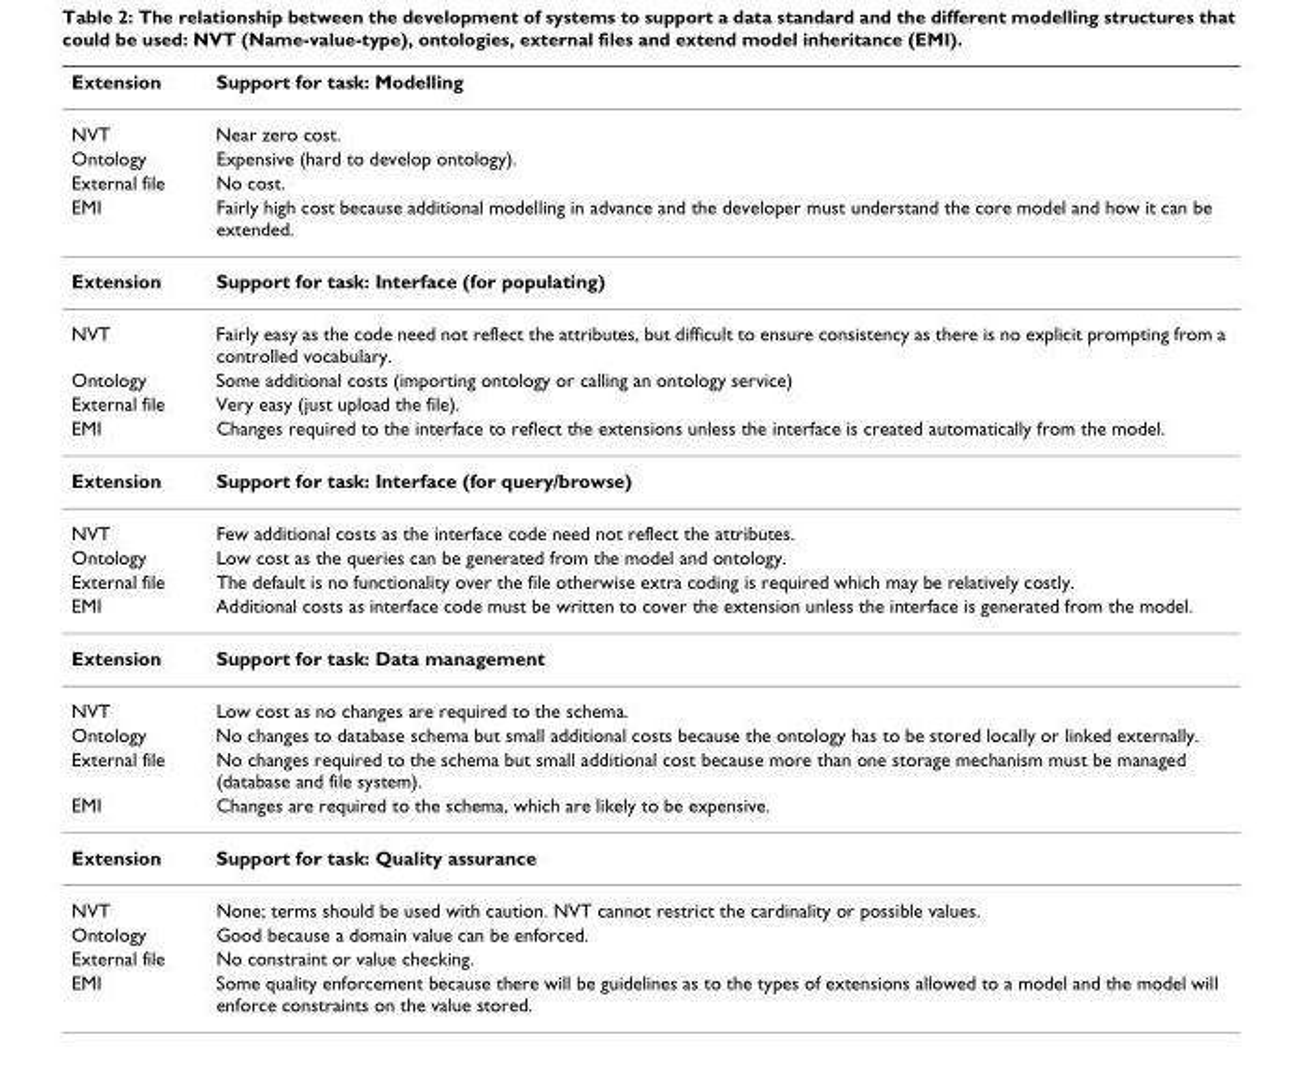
<table><thead><tr><td>Extension</td><td>Support for task: Modelling</td></tr></thead><tbody><tr><td>NVT</td><td>Near zero cost.</td></tr><tr><td>Ontology</td><td>Expensive (hard to develop ontology).</td></tr><tr><td>External file</td><td>No cost.</td></tr><tr><td>EMI</td><td>Fairly high cost because additional modelling in advance and the developer must understand the core model and how it can be extended.</td></tr><tr><td>Extension</td><td>Support for task: Interface (for populating)</td></tr><tr><td>NVT</td><td>Fairly easy as the code need not reflect the attributes, but difficult to ensure consistency as there is no explicit prompting from a controlled vocabulary.</td></tr><tr><td>Ontology</td><td>Some additional costs (importing ontology or calling an ontology service)</td></tr><tr><td>External file</td><td>Very easy (just upload the file).</td></tr><tr><td>EMI</td><td>Changes required to the interface to reflect the extensions unless the interface is created automatically from the model.</td></tr><tr><td>Extension</td><td>Support for task: Interface (for query/browse)</td></tr><tr><td>NVT</td><td>Few additional costs as the interface code need not reflect the attributes.</td></tr><tr><td>Ontology</td><td>Low cost as the queries can be generated from the model and ontology.</td></tr><tr><td>External file</td><td>The default is no functionality over the file otherwise extra coding is required which may be relatively costly.</td></tr><tr><td>EMI</td><td>Additional costs as interface code must be written to cover the extension unless the interface is generated from the model.</td></tr><tr><td>Extension</td><td>Support for task: Data management</td></tr><tr><td>NVT</td><td>Low cost as no changes are required to the schema.</td></tr><tr><td>Ontology</td><td>No changes to database schema but small additional costs because the ontology has to be stored locally or linked externally.</td></tr><tr><td>External file</td><td>No changes required to the schema but small additional cost because more than one storage mechanism must be managed (database and file system).</td></tr><tr><td>EMI</td><td>Changes are required to the schema, which are likely to be expensive.</td></tr><tr><td>Extension</td><td>Support for task: Quality assurance</td></tr><tr><td>NVT</td><td>None; terms should be used with caution. NVT cannot restrict the cardinality or possible values.</td></tr><tr><td>Ontology</td><td>Good because a domain value can be enforced.</td></tr><tr><td>External file</td><td>No constraint or value checking.</td></tr><tr><td>EMI</td><td>Some quality enforcement because there will be guidelines as to the types of extensions allowed to a model and the model will enforce constraints on the value stored.</td></tr></tbody></table>